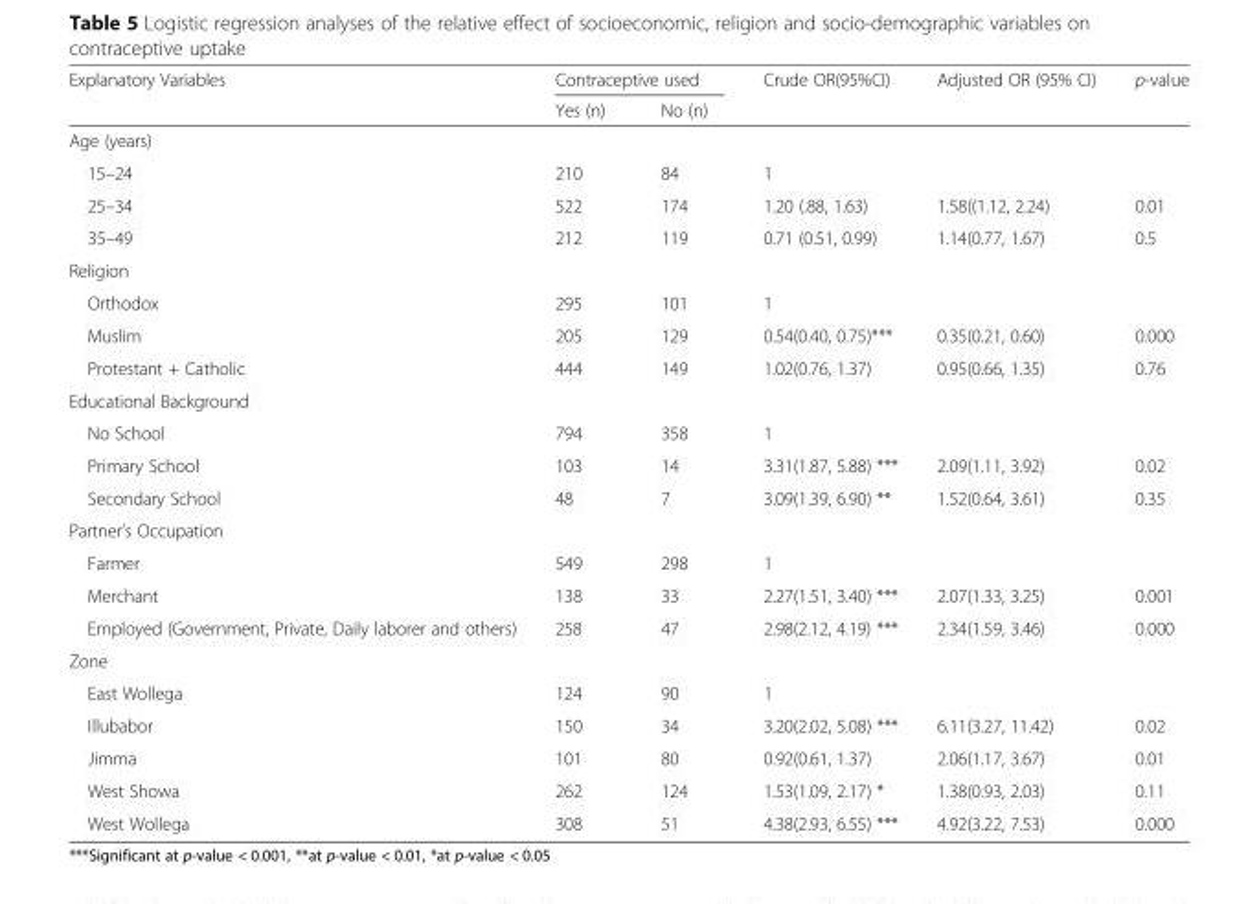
<table><thead><tr><td rowspan="2">Explanatory Variables</td><td colspan="2">Contraceptive used</td><td rowspan="2">Crude OR(95%CI)</td><td rowspan="2">Adjusted OR (95% CI)</td><td rowspan="2">p-value</td></tr><tr><td>Yes (n)</td><td>No (n)</td></tr></thead><tbody><tr><td colspan="6">Age (years)</td></tr><tr><td>15–24</td><td>210</td><td>84</td><td>1</td><td></td><td></td></tr><tr><td>25–34</td><td>522</td><td>174</td><td>1.20 (.88, 1.63)</td><td>1.58((1.12, 2.24)</td><td>0.01</td></tr><tr><td>35–49</td><td>212</td><td>119</td><td>0.71 (0.51, 0.99)</td><td>1.14(0.77, 1.67)</td><td>0.5</td></tr><tr><td colspan="6">Religion</td></tr><tr><td>Orthodox</td><td>295</td><td>101</td><td>1</td><td></td><td></td></tr><tr><td>Muslim</td><td>205</td><td>129</td><td>0.54(0.40, 0.75)***</td><td>0.35(0.21, 0.60)</td><td>0.000</td></tr><tr><td>Protestant + Catholic</td><td>444</td><td>149</td><td>1.02(0.76, 1.37)</td><td>0.95(0.66, 1.35)</td><td>0.76</td></tr><tr><td colspan="6">Educational Background</td></tr><tr><td>No School</td><td>794</td><td>358</td><td>1</td><td></td><td></td></tr><tr><td>Primary School</td><td>103</td><td>14</td><td>3.31(1.87, 5.88) ***</td><td>2.09(1.11, 3.92)</td><td>0.02</td></tr><tr><td>Secondary School</td><td>48</td><td>7</td><td>3.09(1.39, 6.90) **</td><td>1.52(0.64, 3.61)</td><td>0.35</td></tr><tr><td colspan="6">Partner’s Occupation</td></tr><tr><td>Farmer</td><td>549</td><td>298</td><td>1</td><td></td><td></td></tr><tr><td>Merchant</td><td>138</td><td>33</td><td>2.27(1.51, 3.40) ***</td><td>2.07(1.33, 3.25)</td><td>0.001</td></tr><tr><td>Employed (Government, Private, Daily laborer and others)</td><td>258</td><td>47</td><td>2.98(2.12, 4.19) ***</td><td>2.34(1.59, 3.46)</td><td>0.000</td></tr><tr><td colspan="6">Zone</td></tr><tr><td>East Wollega</td><td>124</td><td>90</td><td>1</td><td></td><td></td></tr><tr><td>Illubabor</td><td>150</td><td>34</td><td>3.20(2.02, 5.08) ***</td><td>6.11(3.27, 11.42)</td><td>0.02</td></tr><tr><td>Jimma</td><td>101</td><td>80</td><td>0.92(0.61, 1.37)</td><td>2.06(1.17, 3.67)</td><td>0.01</td></tr><tr><td>West Showa</td><td>262</td><td>124</td><td>1.53(1.09, 2.17) *</td><td>1.38(0.93, 2.03)</td><td>0.11</td></tr><tr><td>West Wollega</td><td>308</td><td>51</td><td>4.38(2.93, 6.55) ***</td><td>4.92(3.22, 7.53)</td><td>0.000</td></tr></tbody></table>